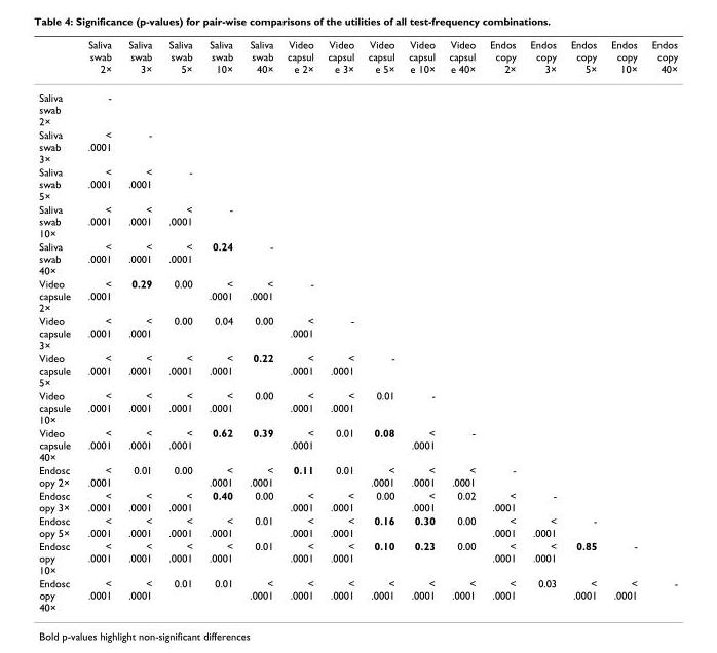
<table><thead><tr><td></td><td>Saliva swab 2×</td><td>Saliva swab 3×</td><td>Saliva swab 5×</td><td>Saliva swab 10×</td><td>Saliva swab 40×</td><td>Video capsul e 2×</td><td>Video capsul e 3×</td><td>Video capsul e 5×</td><td>Video capsul e 10×</td><td>Video capsul e 40×</td><td>Endos copy 2×</td><td>Endos copy 3×</td><td>Endos copy 5×</td><td>Endos copy 10×</td><td>Endos copy 40×</td></tr></thead><tbody><tr><td>Saliva swab 2×</td><td>-</td><td></td><td></td><td></td><td></td><td></td><td></td><td></td><td></td><td></td><td></td><td></td><td></td><td></td><td></td></tr><tr><td>Saliva swab 3×</td><td>&lt; .0001</td><td>-</td><td></td><td></td><td></td><td></td><td></td><td></td><td></td><td></td><td></td><td></td><td></td><td></td><td></td></tr><tr><td>Saliva swab 5×</td><td>&lt; .0001</td><td>&lt; .0001</td><td>-</td><td></td><td></td><td></td><td></td><td></td><td></td><td></td><td></td><td></td><td></td><td></td><td></td></tr><tr><td>Saliva swab 10×</td><td>&lt; .0001</td><td>&lt; .0001</td><td>&lt; .0001</td><td>-</td><td></td><td></td><td></td><td></td><td></td><td></td><td></td><td></td><td></td><td></td><td></td></tr><tr><td>Saliva swab 40×</td><td>&lt; .0001</td><td>&lt; .0001</td><td>&lt; .0001</td><td>0.24</td><td>-</td><td></td><td></td><td></td><td></td><td></td><td></td><td></td><td></td><td></td><td></td></tr><tr><td>Video capsule 2×</td><td>&lt; .0001</td><td>0.29</td><td>0.00</td><td>&lt; .0001</td><td>&lt; .0001</td><td>-</td><td></td><td></td><td></td><td></td><td></td><td></td><td></td><td></td><td></td></tr><tr><td>Video capsule 3×</td><td>&lt; .0001</td><td>&lt; .0001</td><td>0.00</td><td>0.04</td><td>0.00</td><td>&lt; .0001</td><td>-</td><td></td><td></td><td></td><td></td><td></td><td></td><td></td><td></td></tr><tr><td>Video capsule 5×</td><td>&lt; .0001</td><td>&lt; .0001</td><td>&lt; .0001</td><td>&lt; .0001</td><td>0.22</td><td>&lt; .0001</td><td>&lt; .0001</td><td>-</td><td></td><td></td><td></td><td></td><td></td><td></td><td></td></tr><tr><td>Video capsule 10×</td><td>&lt; .0001</td><td>&lt; .0001</td><td>&lt; .0001</td><td>&lt; .0001</td><td>0.00</td><td>&lt; .0001</td><td>&lt; .0001</td><td>0.01</td><td>-</td><td></td><td></td><td></td><td></td><td></td><td></td></tr><tr><td>Video capsule 40×</td><td>&lt; .0001</td><td>&lt; .0001</td><td>&lt; .0001</td><td>0.62</td><td>0.39</td><td>&lt; .0001</td><td>0.01</td><td>0.08</td><td>&lt; .0001</td><td>-</td><td></td><td></td><td></td><td></td><td></td></tr><tr><td>Endosc opy 2×</td><td>&lt; .0001</td><td>0.01</td><td>0.00</td><td>&lt; .0001</td><td>&lt; .0001</td><td>0.11</td><td>0.01</td><td>&lt; .0001</td><td>&lt; .0001</td><td>&lt; .0001</td><td>-</td><td></td><td></td><td></td><td></td></tr><tr><td>Endosc opy 3×</td><td>&lt; .0001</td><td>&lt; .0001</td><td>&lt; .0001</td><td>0.40</td><td>0.00</td><td>&lt; .0001</td><td>&lt; .0001</td><td>0.00</td><td>&lt; .0001</td><td>0.02</td><td>&lt; .0001</td><td>-</td><td></td><td></td><td></td></tr><tr><td>Endosc opy 5×</td><td>&lt; .0001</td><td>&lt; .0001</td><td>&lt; .0001</td><td>&lt; .0001</td><td>0.01</td><td>&lt; .0001</td><td>&lt; .0001</td><td>0.16</td><td>0.30</td><td>0.00</td><td>&lt; .0001</td><td>&lt; .0001</td><td>-</td><td></td><td></td></tr><tr><td>Endosc opy 10×</td><td>&lt; .0001</td><td>&lt; .0001</td><td>&lt; .0001</td><td>&lt; .0001</td><td>0.01</td><td>&lt; .0001</td><td>&lt; .0001</td><td>0.10</td><td>0.23</td><td>0.00</td><td>&lt; .0001</td><td>&lt; .0001</td><td>0.85</td><td>-</td><td></td></tr><tr><td>Endosc opy 40×</td><td>&lt; .0001</td><td>&lt; .0001</td><td>0.01</td><td>0.01</td><td>&lt; .0001</td><td>&lt; .0001</td><td>&lt; .0001</td><td>&lt; .0001</td><td>&lt; .0001</td><td>&lt; .0001</td><td>&lt; .0001</td><td>0.03</td><td>&lt; .0001</td><td>&lt; .0001</td><td>-</td></tr></tbody></table>